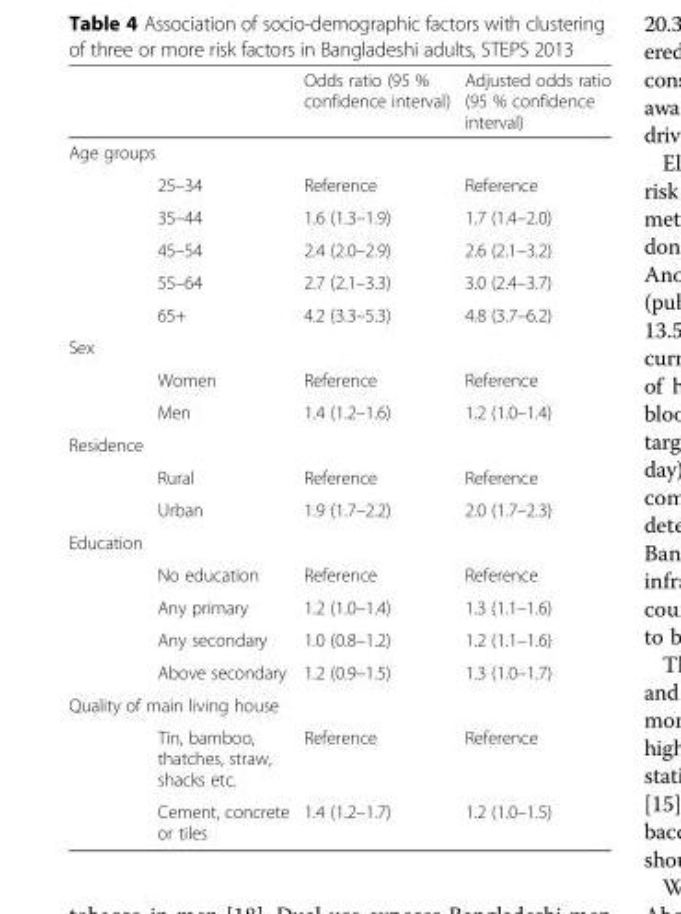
<table><thead><tr><td></td><td></td><td>Odds ratio (95 % confidence interval)</td><td>Adjusted odds ratio (95 % confidence interval)</td></tr></thead><tbody><tr><td colspan="4">Age groups</td></tr><tr><td></td><td>25–34</td><td>Reference</td><td>Reference</td></tr><tr><td></td><td>35–44</td><td>1.6 (1.3–1.9)</td><td>1.7 (1.4–2.0)</td></tr><tr><td></td><td>45–54</td><td>2.4 (2.0–2.9)</td><td>2.6 (2.1–3.2)</td></tr><tr><td></td><td>55–64</td><td>2.7 (2.1–3.3)</td><td>3.0 (2.4–3.7)</td></tr><tr><td></td><td>65+</td><td>4.2 (3.3–5.3)</td><td>4.8 (3.7–6.2)</td></tr><tr><td colspan="4">Sex</td></tr><tr><td></td><td>Women</td><td>Reference</td><td>Reference</td></tr><tr><td></td><td>Men</td><td>1.4 (1.2–1.6)</td><td>1.2 (1.0–1.4)</td></tr><tr><td colspan="4">Residence</td></tr><tr><td></td><td>Rural</td><td>Reference</td><td>Reference</td></tr><tr><td></td><td>Urban</td><td>1.9 (1.7–2.2)</td><td>2.0 (1.7–2.3)</td></tr><tr><td colspan="4">Education</td></tr><tr><td></td><td>No education</td><td>Reference</td><td>Reference</td></tr><tr><td></td><td>Any primary</td><td>1.2 (1.0–1.4)</td><td>1.3 (1.1–1.6)</td></tr><tr><td></td><td>Any secondary</td><td>1.0 (0.8–1.2)</td><td>1.2 (1.1–1.6)</td></tr><tr><td></td><td>Above secondary</td><td>1.2 (0.9–1.5)</td><td>1.3 (1.0–1.7)</td></tr><tr><td colspan="4">Quality of main living house</td></tr><tr><td></td><td>Tin, bamboo, thatches, straw, shacks etc.</td><td>Reference</td><td>Reference</td></tr><tr><td></td><td>Cement, concrete or tiles</td><td>1.4 (1.2–1.7)</td><td>1.2 (1.0–1.5)</td></tr></tbody></table>